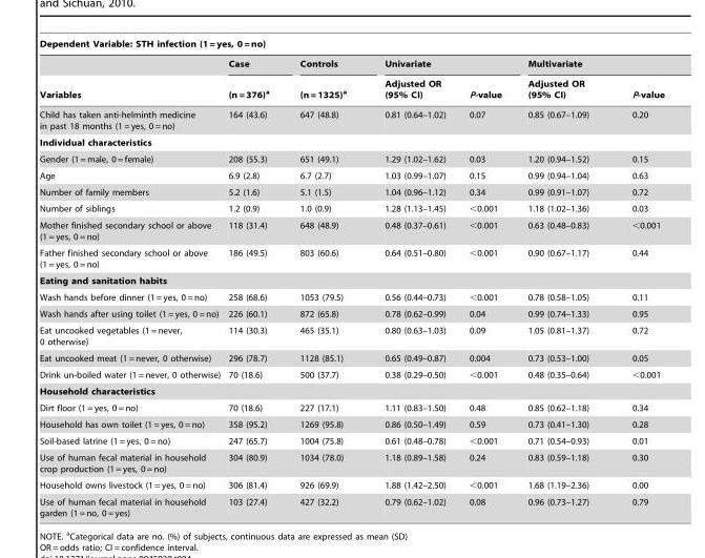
<table><thead><tr><td colspan="7">Dependent Variable: STH infection (1 = yes, 0 = no)</td></tr><tr><td rowspan="2">Variables</td><td rowspan="2">Case (n = 376)<sup>a</sup></td><td rowspan="2">Controls (n = 1325)<sup>a</sup></td><td colspan="2">Univariate</td><td colspan="2">Multivariate</td></tr><tr><td>Adjusted OR (95% CI)</td><td>P-value</td><td>Adjusted OR (95% CI)</td><td>P-value</td></tr></thead><tbody><tr><td>Child has taken anti-helminth medicine in past 18 months (1 = yes, 0 = no)</td><td>164 (43.6)</td><td>647 (48.8)</td><td>0.81 (0.64–1.02)</td><td>0.07</td><td>0.85 (0.67–1.09)</td><td>0.20</td></tr><tr><td colspan="7">Individual characteristics</td></tr><tr><td>Gender (1 = male, 0 = female)</td><td>208 (55.3)</td><td>651 (49.1)</td><td>1.29 (1.02–1.62)</td><td>0.03</td><td>1.20 (0.94–1.52)</td><td>0.15</td></tr><tr><td>Age</td><td>6.9 (2.8)</td><td>6.7 (2.7)</td><td>1.03 (0.99–1.07)</td><td>0.15</td><td>0.99 (0.94–1.04)</td><td>0.63</td></tr><tr><td>Number of family members</td><td>5.2 (1.6)</td><td>5.1 (1.5)</td><td>1.04 (0.96–1.12)</td><td>0.34</td><td>0.99 (0.91–1.07)</td><td>0.72</td></tr><tr><td>Number of siblings</td><td>1.2 (0.9)</td><td>1.0 (0.9)</td><td>1.28 (1.13–1.45)</td><td>&lt;0.001</td><td>1.18 (1.02–1.36)</td><td>0.03</td></tr><tr><td>Mother finished secondary school or above (1 = yes, 0 = no)</td><td>118 (31.4)</td><td>648 (48.9)</td><td>0.48 (0.37–0.61)</td><td>&lt;0.001</td><td>0.63 (0.48–0.83)</td><td>&lt;0.001</td></tr><tr><td>Father finished secondary school or above (1 = yes, 0 = no)</td><td>186 (49.5)</td><td>803 (60.6)</td><td>0.64 (0.51–0.80)</td><td>&lt;0.001</td><td>0.90 (0.67–1.17)</td><td>0.44</td></tr><tr><td colspan="7">Eating and sanitation habits</td></tr><tr><td>Wash hands before dinner (1 = yes, 0 = no)</td><td>258 (68.6)</td><td>1053 (79.5)</td><td>0.56 (0.44–0.73)</td><td>&lt;0.001</td><td>0.78 (0.58–1.05)</td><td>0.11</td></tr><tr><td>Wash hands after using toilet (1 = yes, 0 = no)</td><td>226 (60.1)</td><td>872 (65.8)</td><td>0.78 (0.62–0.99)</td><td>0.04</td><td>0.99 (0.74–1.33)</td><td>0.95</td></tr><tr><td>Eat uncooked vegetables (1 = never, 0 otherwise)</td><td>114 (30.3)</td><td>465 (35.1)</td><td>0.80 (0.63–1.03)</td><td>0.09</td><td>1.05 (0.81–1.37)</td><td>0.72</td></tr><tr><td>Eat uncooked meat (1 = never, 0 otherwise)</td><td>296 (78.7)</td><td>1128 (85.1)</td><td>0.65 (0.49–0.87)</td><td>0.004</td><td>0.73 (0.53–1.00)</td><td>0.05</td></tr><tr><td>Drink un-boiled water (1 = never, 0 otherwise)</td><td>70 (18.6)</td><td>500 (37.7)</td><td>0.38 (0.29–0.50)</td><td>&lt;0.001</td><td>0.48 (0.35–0.64)</td><td>&lt;0.001</td></tr><tr><td colspan="7">Household characteristics</td></tr><tr><td>Dirt floor (1 = yes, 0 = no)</td><td>70 (18.6)</td><td>227 (17.1)</td><td>1.11 (0.83–1.50)</td><td>0.48</td><td>0.85 (0.62–1.18)</td><td>0.34</td></tr><tr><td>Household has own toilet (1 = yes, 0 = no)</td><td>358 (95.2)</td><td>1269 (95.8)</td><td>0.86 (0.50–1.49)</td><td>0.59</td><td>0.73 (0.41–1.30)</td><td>0.28</td></tr><tr><td>Soil-based latrine (1 = yes, 0 = no)</td><td>247 (65.7)</td><td>1004 (75.8)</td><td>0.61 (0.48–0.78)</td><td>&lt;0.001</td><td>0.71 (0.54–0.93)</td><td>0.01</td></tr><tr><td>Use of human fecal material in household crop production (1 = yes, 0 = no)</td><td>304 (80.9)</td><td>1034 (78.0)</td><td>1.18 (0.89–1.58)</td><td>0.24</td><td>0.83 (0.59–1.18)</td><td>0.30</td></tr><tr><td>Household owns livestock (1 = yes, 0 = no)</td><td>306 (81.4)</td><td>926 (69.9)</td><td>1.88 (1.42–2.50)</td><td>&lt;0.001</td><td>1.68 (1.19–2.36)</td><td>0.00</td></tr><tr><td>Use of human fecal material in household garden (1 = no, 0 = yes)</td><td>103 (27.4)</td><td>427 (32.2)</td><td>0.79 (0.62–1.02)</td><td>0.08</td><td>0.96 (0.73–1.27)</td><td>0.79</td></tr></tbody></table>